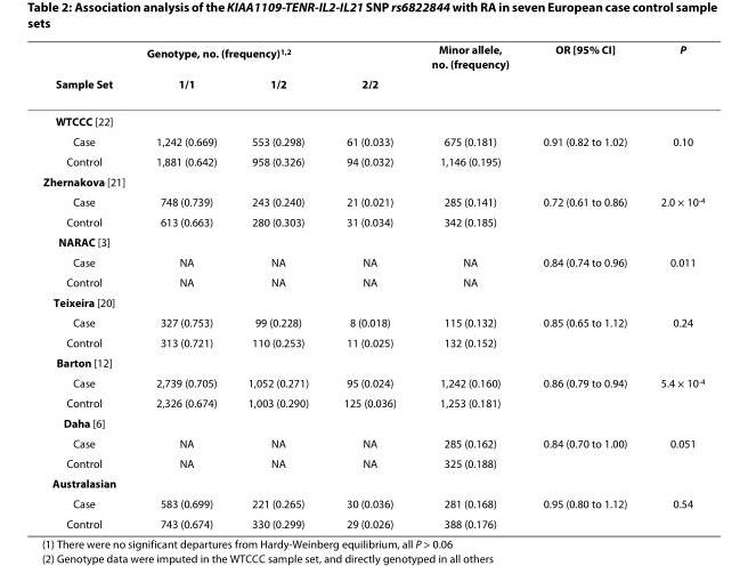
<table><thead><tr><td rowspan="2">Sample Set</td><td colspan="3">Genotype, no. (frequency)<sup>1,2</sup></td><td rowspan="2">Minor allele, no. (frequency)</td><td rowspan="2">OR [95% CI]</td><td rowspan="2">P</td></tr><tr><td>1/1</td><td>1/2</td><td>2/2</td></tr></thead><tbody><tr><td colspan="7">WTCCC [22]</td></tr><tr><td>Case</td><td>1,242 (0.669)</td><td>553 (0.298)</td><td>61 (0.033)</td><td>675 (0.181)</td><td>0.91 (0.82 to 1.02)</td><td>0.10</td></tr><tr><td>Control</td><td>1,881 (0.642)</td><td>958 (0.326)</td><td>94 (0.032)</td><td>1,146 (0.195)</td><td></td><td></td></tr><tr><td colspan="7">Zhernakova [21]</td></tr><tr><td>Case</td><td>748 (0.739)</td><td>243 (0.240)</td><td>21 (0.021)</td><td>285 (0.141)</td><td>0.72 (0.61 to 0.86)</td><td>2.0 × 10<sup>-4</sup></td></tr><tr><td>Control</td><td>613 (0.663)</td><td>280 (0.303)</td><td>31 (0.034)</td><td>342 (0.185)</td><td></td><td></td></tr><tr><td colspan="7">NARAC [3]</td></tr><tr><td>Case</td><td>NA</td><td>NA</td><td>NA</td><td>NA</td><td>0.84 (0.74 to 0.96)</td><td>0.011</td></tr><tr><td>Control</td><td>NA</td><td>NA</td><td>NA</td><td>NA</td><td></td><td></td></tr><tr><td colspan="7">Teixeira [20]</td></tr><tr><td>Case</td><td>327 (0.753)</td><td>99 (0.228)</td><td>8 (0.018)</td><td>115 (0.132)</td><td>0.85 (0.65 to 1.12)</td><td>0.24</td></tr><tr><td>Control</td><td>313 (0.721)</td><td>110 (0.253)</td><td>11 (0.025)</td><td>132 (0.152)</td><td></td><td></td></tr><tr><td colspan="7">Barton [12]</td></tr><tr><td>Case</td><td>2,739 (0.705)</td><td>1,052 (0.271)</td><td>95 (0.024)</td><td>1,242 (0.160)</td><td>0.86 (0.79 to 0.94)</td><td>5.4 × 10<sup>-4</sup></td></tr><tr><td>Control</td><td>2,326 (0.674)</td><td>1,003 (0.290)</td><td>125 (0.036)</td><td>1,253 (0.181)</td><td></td><td></td></tr><tr><td colspan="7">Daha [6]</td></tr><tr><td>Case</td><td>NA</td><td>NA</td><td>NA</td><td>285 (0.162)</td><td>0.84 (0.70 to 1.00)</td><td>0.051</td></tr><tr><td>Control</td><td>NA</td><td>NA</td><td>NA</td><td>325 (0.188)</td><td></td><td></td></tr><tr><td colspan="7">Australasian</td></tr><tr><td>Case</td><td>583 (0.699)</td><td>221 (0.265)</td><td>30 (0.036)</td><td>281 (0.168)</td><td>0.95 (0.80 to 1.12)</td><td>0.54</td></tr><tr><td>Control</td><td>743 (0.674)</td><td>330 (0.299)</td><td>29 (0.026)</td><td>388 (0.176)</td><td></td><td></td></tr></tbody></table>